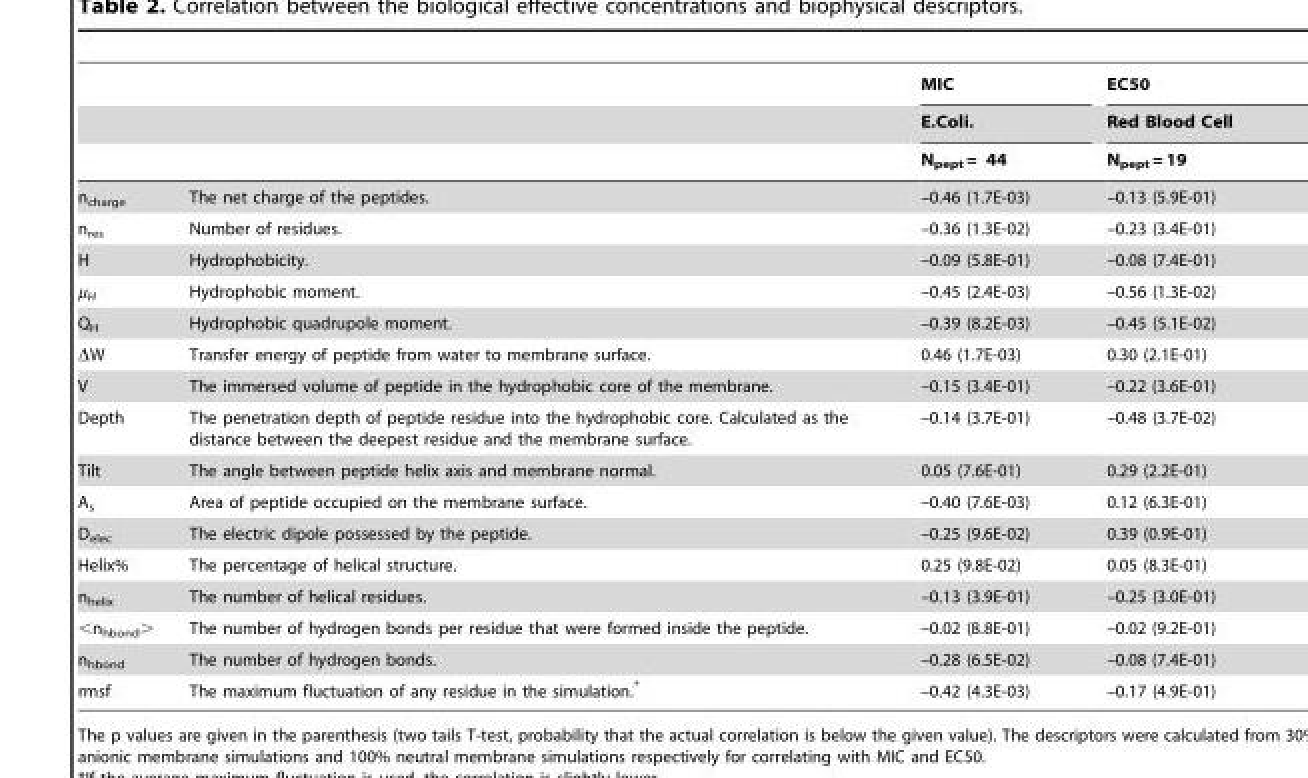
<table><thead><tr><td rowspan="3"></td><td rowspan="3"></td><td rowspan="3">MIC E.Coli. N<sub>pept</sub> = 44</td><td rowspan="3">EC50 Red Blood Cell N<sub>pept</sub> = 19</td></tr><tr></tr><tr></tr></thead><tbody><tr><td>n<sub>charge</sub></td><td>The net charge of the peptides.</td><td>–0.46 (1.7E-03)</td><td>–0.13 (5.9E-01)</td></tr><tr><td>n<sub>res</sub></td><td>Number of residues.</td><td>–0.36 (1.3E-02)</td><td>–0.23 (3.4E-01)</td></tr><tr><td>H</td><td>Hydrophobicity.</td><td>–0.09 (5.8E-01)</td><td>–0.08 (7.4E-01)</td></tr><tr><td>µ<sub>H</sub></td><td>Hydrophobic moment.</td><td>–0.45 (2.4E-03)</td><td>–0.56 (1.3E-02)</td></tr><tr><td>Q<sub>H</sub></td><td>Hydrophobic quadrupole moment.</td><td>–0.39 (8.2E-03)</td><td>–0.45 (5.1E-02)</td></tr><tr><td>ΔW</td><td>Transfer energy of peptide from water to membrane surface.</td><td>0.46 (1.7E-03)</td><td>0.30 (2.1E-01)</td></tr><tr><td>V</td><td>The immersed volume of peptide in the hydrophobic core of the membrane.</td><td>–0.15 (3.4E-01)</td><td>–0.22 (3.6E-01)</td></tr><tr><td>Depth</td><td>The penetration depth of peptide residue into the hydrophobic core. Calculated as the distance between the deepest residue and the membrane surface.</td><td>–0.14 (3.7E-01)</td><td>–0.48 (3.7E-02)</td></tr><tr><td>Tilt</td><td>The angle between peptide helix axis and membrane normal.</td><td>0.05 (7.6E-01)</td><td>0.29 (2.2E-01)</td></tr><tr><td>A<sub>s</sub></td><td>Area of peptide occupied on the membrane surface.</td><td>–0.40 (7.6E-03)</td><td>0.12 (6.3E-01)</td></tr><tr><td>D<sub>elec</sub></td><td>The electric dipole possessed by the peptide.</td><td>–0.25 (9.6E-02)</td><td>0.39 (0.9E-01)</td></tr><tr><td>Helix%</td><td>The percentage of helical structure.</td><td>0.25 (9.8E-02)</td><td>0.05 (8.3E-01)</td></tr><tr><td>n<sub>helix</sub></td><td>The number of helical residues.</td><td>–0.13 (3.9E-01)</td><td>–0.25 (3.0E-01)</td></tr><tr><td>&lt;n<sub>hbond</sub>&gt;</td><td>The number of hydrogen bonds per residue that were formed inside the peptide.</td><td>–0.02 (8.8E-01)</td><td>–0.02 (9.2E-01)</td></tr><tr><td>n<sub>hbond</sub></td><td>The number of hydrogen bonds.</td><td>–0.28 (6.5E-02)</td><td>–0.08 (7.4E-01)</td></tr><tr><td>rmsf</td><td>The maximum fluctuation of any residue in the simulation.*</td><td>–0.42 (4.3E-03)</td><td>–0.17 (4.9E-01)</td></tr></tbody></table>